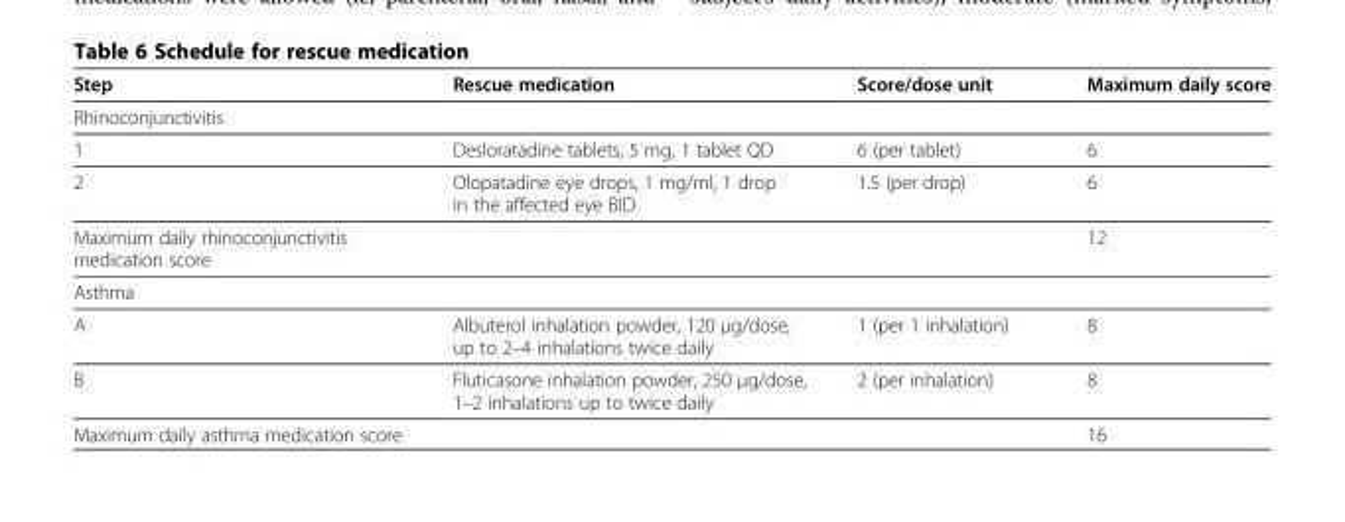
<table><thead><tr><td>Step</td><td>Rescue medication</td><td>Score/dose unit</td><td>Maximum daily score</td></tr></thead><tbody><tr><td colspan="4">Rhinoconjunctivitis</td></tr><tr><td>1</td><td>Desloratadine tablets, 5 mg, 1 tablet QD</td><td>6 (per tablet)</td><td>6</td></tr><tr><td>2</td><td>Olopatadine eye drops, 1 mg/ml, 1 drop in the affected eye BID</td><td>1.5 (per drop)</td><td>6</td></tr><tr><td>Maximum daily rhinoconjunctivitis medication score</td><td></td><td></td><td>12</td></tr><tr><td colspan="4">Asthma</td></tr><tr><td>A</td><td>Albuterol inhalation powder, 120 μg/dose, up to 2–4 inhalations twice daily</td><td>1 (per 1 inhalation)</td><td>8</td></tr><tr><td>B</td><td>Fluticasone inhalation powder, 250 μg/dose, 1–2 inhalations up to twice daily</td><td>2 (per inhalation)</td><td>8</td></tr><tr><td>Maximum daily asthma medication score</td><td></td><td></td><td>16</td></tr></tbody></table>